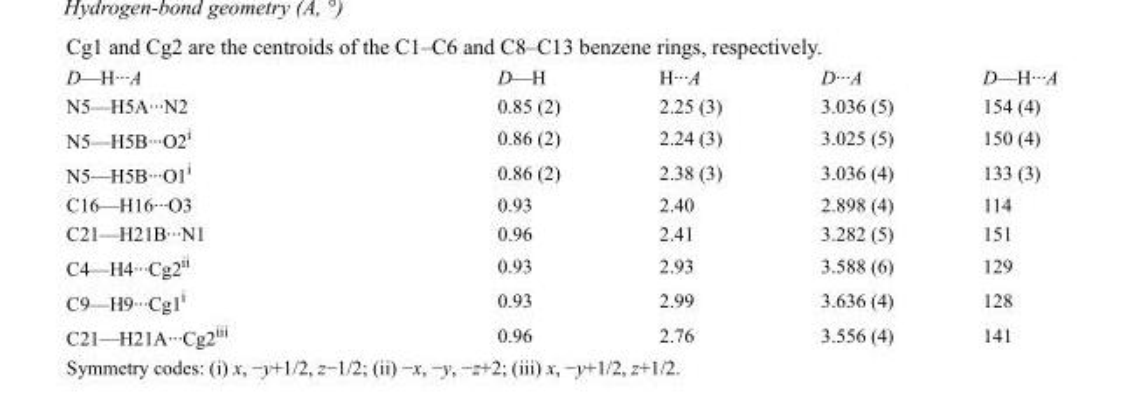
<table><tbody><tr><td>D—H···A</td><td>D—H</td><td>H···A</td><td>D···A</td><td>D—H···A</td></tr><tr><td>N5—H5A···N2</td><td>0.85 (2)</td><td>2.25 (3)</td><td>3.036 (5)</td><td>154 (4)</td></tr><tr><td>N5—H5B···O2<sup>i</sup></td><td>0.86 (2)</td><td>2.24 (3)</td><td>3.025 (5)</td><td>150 (4)</td></tr><tr><td>N5—H5B···O1<sup>i</sup></td><td>0.86 (2)</td><td>2.38 (3)</td><td>3.036 (4)</td><td>133 (3)</td></tr><tr><td>C16—H16···O3</td><td>0.93</td><td>2.40</td><td>2.898 (4)</td><td>114</td></tr><tr><td>C21—H21B···N1</td><td>0.96</td><td>2.41</td><td>3.282 (5)</td><td>151</td></tr><tr><td>C4—H4···Cg2<sup>ii</sup></td><td>0.93</td><td>2.93</td><td>3.588 (6)</td><td>129</td></tr><tr><td>C9—H9···Cg1<sup>i</sup></td><td>0.93</td><td>2.99</td><td>3.636 (4)</td><td>128</td></tr><tr><td>C21—H21A···Cg2<sup>iii</sup></td><td>0.96</td><td>2.76</td><td>3.556 (4)</td><td>141</td></tr></tbody></table>